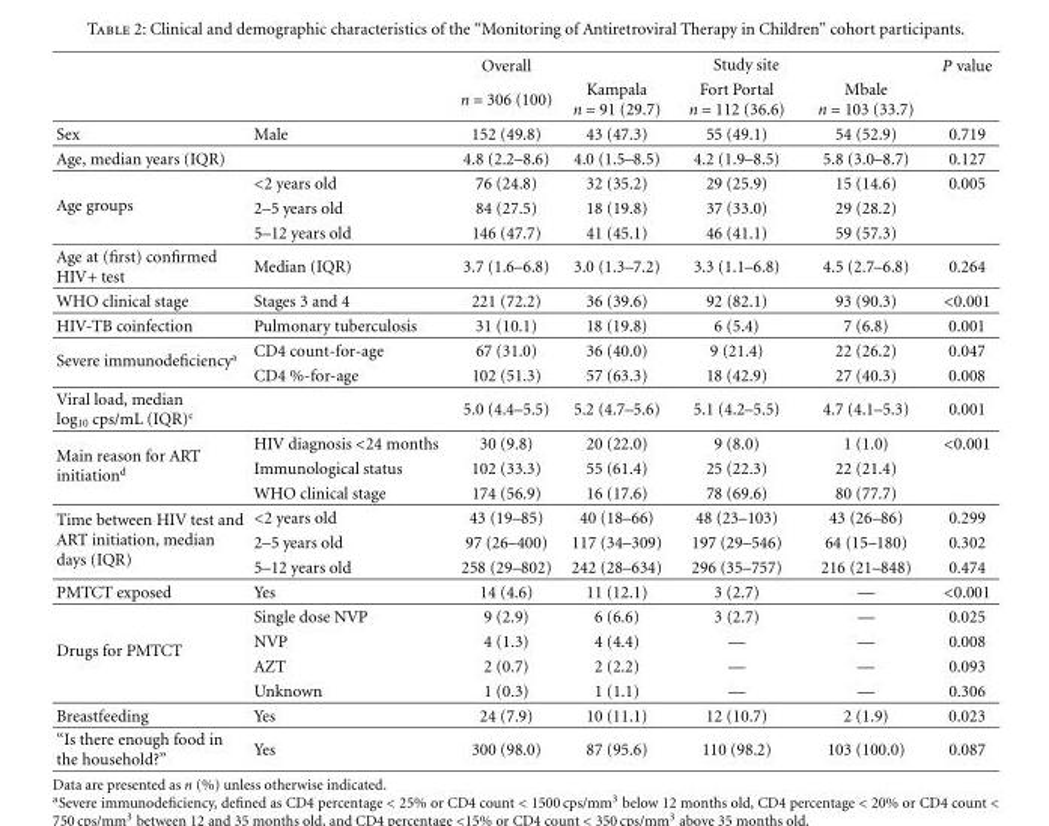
<table><thead><tr><td rowspan="2"></td><td rowspan="2"></td><td rowspan="2">Overall n = 306 (100)</td><td colspan="3">Study site</td><td rowspan="2">P value</td></tr><tr><td>Kampala n = 91 (29.7)</td><td>Fort Portal n = 112 (36.6)</td><td>Mbale n = 103 (33.7)</td></tr></thead><tbody><tr><td>Sex</td><td>Male</td><td>152 (49.8)</td><td>43 (47.3)</td><td>55 (49.1)</td><td>54 (52.9)</td><td>0.719</td></tr><tr><td>Age, median years (IQR)</td><td></td><td>4.8 (2.2–8.6)</td><td>4.0 (1.5–8.5)</td><td>4.2 (1.9–8.5)</td><td>5.8 (3.0–8.7)</td><td>0.127</td></tr><tr><td rowspan="3">Age groups</td><td>&lt;2 years old</td><td>76 (24.8)</td><td>32 (35.2)</td><td>29 (25.9)</td><td>15 (14.6)</td><td>0.005</td></tr><tr><td>2–5 years old</td><td>84 (27.5)</td><td>18 (19.8)</td><td>37 (33.0)</td><td>29 (28.2)</td><td></td></tr><tr><td>5–12 years old</td><td>146 (47.7)</td><td>41 (45.1)</td><td>46 (41.1)</td><td>59 (57.3)</td><td></td></tr><tr><td>Age at (first) confirmed HIV+ test</td><td>Median (IQR)</td><td>3.7 (1.6–6.8)</td><td>3.0 (1.3–7.2)</td><td>3.3 (1.1–6.8)</td><td>4.5 (2.7–6.8)</td><td>0.264</td></tr><tr><td>WHO clinical stage</td><td>Stages 3 and 4</td><td>221 (72.2)</td><td>36 (39.6)</td><td>92 (82.1)</td><td>93 (90.3)</td><td>&lt;0.001</td></tr><tr><td>HIV-TB coinfection</td><td>Pulmonary tuberculosis</td><td>31 (10.1)</td><td>18 (19.8)</td><td>6 (5.4)</td><td>7 (6.8)</td><td>0.001</td></tr><tr><td rowspan="2">Severe immunodeficiency<sup>a</sup></td><td>CD4 count-for-age</td><td>67 (31.0)</td><td>36 (40.0)</td><td>9 (21.4)</td><td>22 (26.2)</td><td>0.047</td></tr><tr><td>CD4 %-for-age</td><td>102 (51.3)</td><td>57 (63.3)</td><td>18 (42.9)</td><td>27 (40.3)</td><td>0.008</td></tr><tr><td>Viral load, median log<sub>10</sub> cps/mL (IQR)<sup>c</sup></td><td></td><td>5.0 (4.4–5.5)</td><td>5.2 (4.7–5.6)</td><td>5.1 (4.2–5.5)</td><td>4.7 (4.1–5.3)</td><td>0.001</td></tr><tr><td rowspan="3">Main reason for ART initiation<sup>d</sup></td><td>HIV diagnosis &lt;24 months</td><td>30 (9.8)</td><td>20 (22.0)</td><td>9 (8.0)</td><td>1 (1.0)</td><td>&lt;0.001</td></tr><tr><td>Immunological status</td><td>102 (33.3)</td><td>55 (61.4)</td><td>25 (22.3)</td><td>22 (21.4)</td><td></td></tr><tr><td>WHO clinical stage</td><td>174 (56.9)</td><td>16 (17.6)</td><td>78 (69.6)</td><td>80 (77.7)</td><td></td></tr><tr><td rowspan="3">Time between HIV test and ART initiation, median days (IQR)</td><td>&lt;2 years old</td><td>43 (19–85)</td><td>40 (18–66)</td><td>48 (23–103)</td><td>43 (26–86)</td><td>0.299</td></tr><tr><td>2–5 years old</td><td>97 (26–400)</td><td>117 (34–309)</td><td>197 (29–546)</td><td>64 (15–180)</td><td>0.302</td></tr><tr><td>5–12 years old</td><td>258 (29–802)</td><td>242 (28–634)</td><td>296 (35–757)</td><td>216 (21–848)</td><td>0.474</td></tr><tr><td>PMTCT exposed</td><td>Yes</td><td>14 (4.6)</td><td>11 (12.1)</td><td>3 (2.7)</td><td>—</td><td>&lt;0.001</td></tr><tr><td rowspan="4">Drugs for PMTCT</td><td>Single dose NVP</td><td>9 (2.9)</td><td>6 (6.6)</td><td>3 (2.7)</td><td>—</td><td>0.025</td></tr><tr><td>NVP</td><td>4 (1.3)</td><td>4 (4.4)</td><td>—</td><td>—</td><td>0.008</td></tr><tr><td>AZT</td><td>2 (0.7)</td><td>2 (2.2)</td><td>—</td><td>—</td><td>0.093</td></tr><tr><td>Unknown</td><td>1 (0.3)</td><td>1 (1.1)</td><td>—</td><td>—</td><td>0.306</td></tr><tr><td>Breastfeeding</td><td>Yes</td><td>24 (7.9)</td><td>10 (11.1)</td><td>12 (10.7)</td><td>2 (1.9)</td><td>0.023</td></tr><tr><td>“Is there enough food in the household?”</td><td>Yes</td><td>300 (98.0)</td><td>87 (95.6)</td><td>110 (98.2)</td><td>103 (100.0)</td><td>0.087</td></tr></tbody></table>